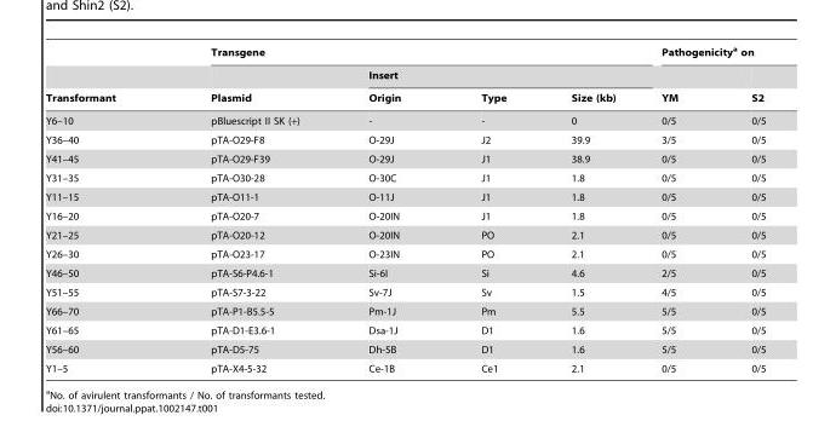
<table><thead><tr><td rowspan="3">Transformant</td><td colspan="4">Transgene</td><td colspan="2">Pathogenicity<sup>a</sup> on</td></tr><tr><td rowspan="2">Plasmid</td><td colspan="3">Insert</td><td rowspan="2">YM</td><td rowspan="2">S2</td></tr><tr><td>Origin</td><td>Type</td><td>Size (kb)</td></tr></thead><tbody><tr><td>Y6–10</td><td>pBluescript II SK (+)</td><td>-</td><td>-</td><td>0</td><td>0/5</td><td>0/5</td></tr><tr><td>Y36–40</td><td>pTA-O29-F8</td><td>O-29J</td><td>J2</td><td>39.9</td><td>3/5</td><td>0/5</td></tr><tr><td>Y41–45</td><td>pTA-O29-F39</td><td>O-29J</td><td>J1</td><td>38.9</td><td>0/5</td><td>0/5</td></tr><tr><td>Y31–35</td><td>pTA-O30-28</td><td>O-30C</td><td>J1</td><td>1.8</td><td>0/5</td><td>0/5</td></tr><tr><td>Y11–15</td><td>pTA-O11-1</td><td>O-11J</td><td>J1</td><td>1.8</td><td>0/5</td><td>0/5</td></tr><tr><td>Y16–20</td><td>pTA-O20-7</td><td>O-20IN</td><td>J1</td><td>1.8</td><td>0/5</td><td>0/5</td></tr><tr><td>Y21–25</td><td>pTA-O20-12</td><td>O-20IN</td><td>PO</td><td>2.1</td><td>0/5</td><td>0/5</td></tr><tr><td>Y26–30</td><td>pTA-O23-17</td><td>O-23IN</td><td>PO</td><td>2.1</td><td>0/5</td><td>0/5</td></tr><tr><td>Y46–50</td><td>pTA-S6-P4.6-1</td><td>Si-6I</td><td>Si</td><td>4.6</td><td>2/5</td><td>0/5</td></tr><tr><td>Y51–55</td><td>pTA-S7-3-22</td><td>Sv-7J</td><td>Sv</td><td>1.5</td><td>4/5</td><td>0/5</td></tr><tr><td>Y66–70</td><td>pTA-P1-B5.5-5</td><td>Pm-1J</td><td>Pm</td><td>5.5</td><td>5/5</td><td>0/5</td></tr><tr><td>Y61–65</td><td>pTA-D1-E3.6-1</td><td>Dsa-1J</td><td>D1</td><td>1.6</td><td>5/5</td><td>0/5</td></tr><tr><td>Y56–60</td><td>pTA-D5-75</td><td>Dh-5B</td><td>D1</td><td>1.6</td><td>5/5</td><td>0/5</td></tr><tr><td>Y1–5</td><td>pTA-X4-5-32</td><td>Ce-1B</td><td>Ce1</td><td>2.1</td><td>0/5</td><td>0/5</td></tr></tbody></table>